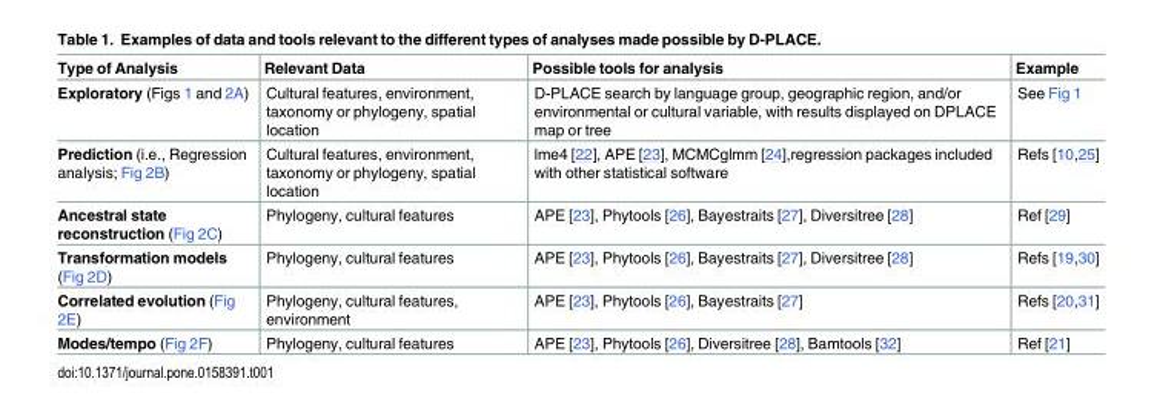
<table><thead><tr><td>Type of Analysis</td><td>Relevant Data</td><td>Possible tools for analysis</td><td>Example</td></tr></thead><tbody><tr><td>Exploratory (Figs 1 and 2A)</td><td>Cultural features, environment, taxonomy or phylogeny, spatial location</td><td>D-PLACE search by language group, geographic region, and/or environmental or cultural variable, with results displayed on DPLACE map or tree</td><td>See Fig 1</td></tr><tr><td>Prediction (i.e., Regression analysis; Fig 2B)</td><td>Cultural features, environment, taxonomy or phylogeny, spatial location</td><td>lme4 [22], APE [23], MCMCglmm [24],regression packages included with other statistical software</td><td>Refs [10,25]</td></tr><tr><td>Ancestral state reconstruction (Fig 2C)</td><td>Phylogeny, cultural features</td><td>APE [23], Phytools [26], Bayestraits [27], Diversitree [28]</td><td>Ref [29]</td></tr><tr><td>Transformation models (Fig 2D)</td><td>Phylogeny, cultural features</td><td>APE [23], Phytools [26], Bayestraits [27], Diversitree [28]</td><td>Refs [19,30]</td></tr><tr><td>Correlated evolution (Fig 2E)</td><td>Phylogeny, cultural features, environment</td><td>APE [23], Phytools [26], Bayestraits [27]</td><td>Refs [20,31]</td></tr><tr><td>Modes/tempo (Fig 2F)</td><td>Phylogeny, cultural features</td><td>APE [23], Phytools [26], Diversitree [28], Bamtools [32]</td><td>Ref [21]</td></tr></tbody></table>